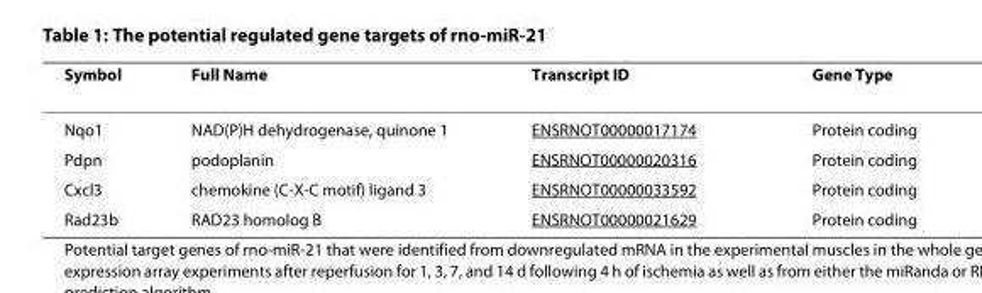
<table><thead><tr><td>Symbol</td><td>Full Name</td><td>Transcript ID</td><td>Gene Type</td></tr></thead><tbody><tr><td>Nqo1</td><td>NAD(P)H dehydrogenase, quinone 1</td><td>ENSRNOT00000017174</td><td>Protein coding</td></tr><tr><td>Pdpn</td><td>podoplanin</td><td>ENSRNOT00000020316</td><td>Protein coding</td></tr><tr><td>Cxcl3</td><td>chemokine (C-X-C motif) ligand 3</td><td>ENSRNOT00000033592</td><td>Protein coding</td></tr><tr><td>Rad23b</td><td>RAD23 homolog B</td><td>ENSRNOT00000021629</td><td>Protein coding</td></tr></tbody></table>